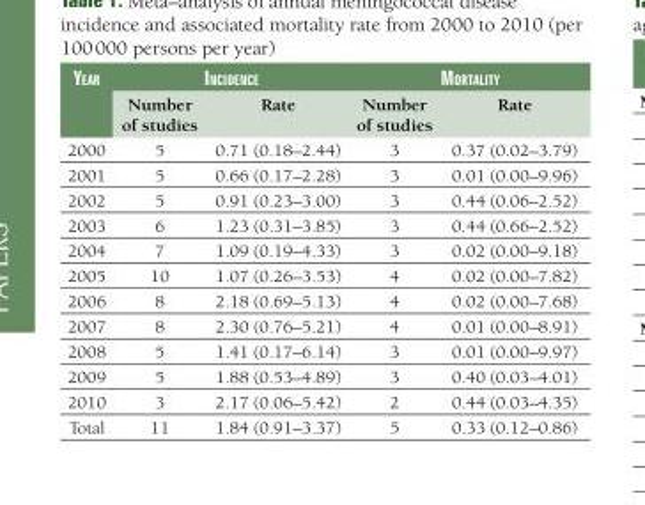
<table><thead><tr><td rowspan="2">Year</td><td colspan="2">IncIdence</td><td colspan="2">MortalItY</td></tr><tr><td>Number of studies</td><td>Rate</td><td>Number of studies</td><td>Rate</td></tr></thead><tbody><tr><td>2000</td><td>5</td><td>0.71 (0.18–2.44)</td><td>3</td><td>0.37 (0.02–3.79)</td></tr><tr><td>2001</td><td>5</td><td>0.66 (0.17–2.28)</td><td>3</td><td>0.01 (0.00–9.96)</td></tr><tr><td>2002</td><td>5</td><td>0.91 (0.23–3.00)</td><td>3</td><td>0.44 (0.06–2.52)</td></tr><tr><td>2003</td><td>6</td><td>1.23 (0.31–3.85)</td><td>3</td><td>0.44 (0.66–2.52)</td></tr><tr><td>2004</td><td>7</td><td>1.09 (0.19–4.33)</td><td>3</td><td>0.02 (0.00–9.18)</td></tr><tr><td>2005</td><td>10</td><td>1.07 (0.26–3.53)</td><td>4</td><td>0.02 (0.00–7.82)</td></tr><tr><td>2006</td><td>8</td><td>2.18 (0.69–5.13)</td><td>4</td><td>0.02 (0.00–7.68)</td></tr><tr><td>2007</td><td>8</td><td>2.30 (0.76–5.21)</td><td>4</td><td>0.01 (0.00–8.91)</td></tr><tr><td>2008</td><td>5</td><td>1.41 (0.17–6.14)</td><td>3</td><td>0.01 (0.00–9.97)</td></tr><tr><td>2009</td><td>5</td><td>1.88 (0.53–4.89)</td><td>3</td><td>0.40 (0.03–4.01)</td></tr><tr><td>2010</td><td>3</td><td>2.17 (0.06–5.42)</td><td>2</td><td>0.44 (0.03–4.35)</td></tr><tr><td>Total</td><td>11</td><td>1.84 (0.91–3.37)</td><td>5</td><td>0.33 (0.12–0.86)</td></tr></tbody></table>